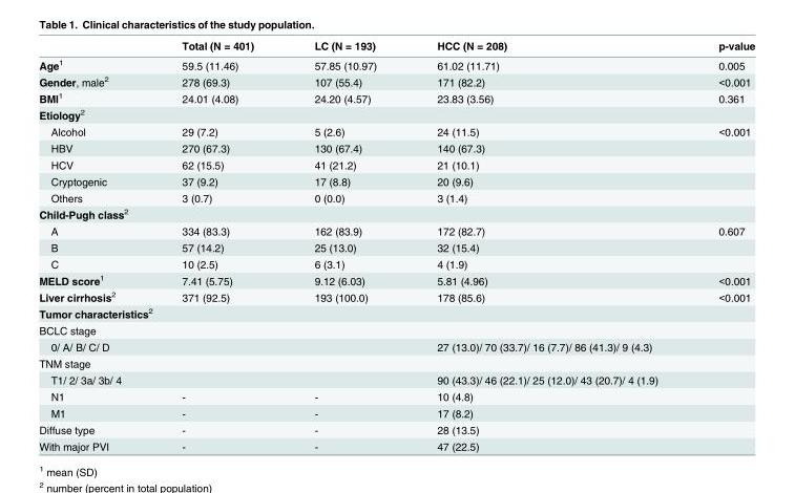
<table><thead><tr><td></td><td>Total (N = 401)</td><td>LC (N = 193)</td><td>HCC (N = 208)</td><td>p-value</td></tr></thead><tbody><tr><td>Age<sup>1</sup></td><td>59.5 (11.46)</td><td>57.85 (10.97)</td><td>61.02 (11.71)</td><td>0.005</td></tr><tr><td>Gender, male<sup>2</sup></td><td>278 (69.3)</td><td>107 (55.4)</td><td>171 (82.2)</td><td>&lt;0.001</td></tr><tr><td>BMI<sup>1</sup></td><td>24.01 (4.08)</td><td>24.20 (4.57)</td><td>23.83 (3.56)</td><td>0.361</td></tr><tr><td colspan="5">Etiology<sup>2</sup></td></tr><tr><td>Alcohol</td><td>29 (7.2)</td><td>5 (2.6)</td><td>24 (11.5)</td><td>&lt;0.001</td></tr><tr><td>HBV</td><td>270 (67.3)</td><td>130 (67.4)</td><td>140 (67.3)</td><td></td></tr><tr><td>HCV</td><td>62 (15.5)</td><td>41 (21.2)</td><td>21 (10.1)</td><td></td></tr><tr><td>Cryptogenic</td><td>37 (9.2)</td><td>17 (8.8)</td><td>20 (9.6)</td><td></td></tr><tr><td>Others</td><td>3 (0.7)</td><td>0 (0.0)</td><td>3 (1.4)</td><td></td></tr><tr><td colspan="5">Child-Pugh class<sup>2</sup></td></tr><tr><td>A</td><td>334 (83.3)</td><td>162 (83.9)</td><td>172 (82.7)</td><td>0.607</td></tr><tr><td>B</td><td>57 (14.2)</td><td>25 (13.0)</td><td>32 (15.4)</td><td></td></tr><tr><td>C</td><td>10 (2.5)</td><td>6 (3.1)</td><td>4 (1.9)</td><td></td></tr><tr><td>MELD score<sup>1</sup></td><td>7.41 (5.75)</td><td>9.12 (6.03)</td><td>5.81 (4.96)</td><td>&lt;0.001</td></tr><tr><td>Liver cirrhosis<sup>2</sup></td><td>371 (92.5)</td><td>193 (100.0)</td><td>178 (85.6)</td><td>&lt;0.001</td></tr><tr><td colspan="5">Tumor characteristics<sup>2</sup></td></tr><tr><td colspan="5">BCLC stage</td></tr><tr><td>0/ A/ B/ C/ D</td><td></td><td></td><td>27 (13.0)/ 70 (33.7)/ 16 (7.7)/ 86 (41.3)/ 9 (4.3)</td><td></td></tr><tr><td colspan="5">TNM stage</td></tr><tr><td>T1/ 2/ 3a/ 3b/ 4</td><td></td><td></td><td>90 (43.3)/ 46 (22.1)/ 25 (12.0)/ 43 (20.7)/ 4 (1.9)</td><td></td></tr><tr><td>N1</td><td>-</td><td>-</td><td>10 (4.8)</td><td></td></tr><tr><td>M1</td><td>-</td><td>-</td><td>17 (8.2)</td><td></td></tr><tr><td>Diffuse type</td><td>-</td><td>-</td><td>28 (13.5)</td><td></td></tr><tr><td>With major PVI</td><td>-</td><td>-</td><td>47 (22.5)</td><td></td></tr></tbody></table>